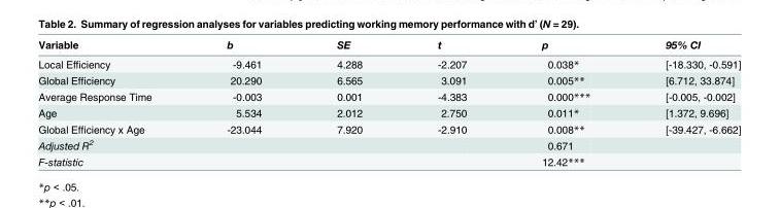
<table><thead><tr><td>Variable</td><td>b</td><td>SE</td><td>t</td><td>p</td><td>95% CI</td></tr></thead><tbody><tr><td>Local Efficiency</td><td>-9.461</td><td>4.288</td><td>-2.207</td><td>0.038*</td><td>[-18.330, -0.591]</td></tr><tr><td>Global Efficiency</td><td>20.290</td><td>6.565</td><td>3.091</td><td>0.005**</td><td>[6.712, 33.874]</td></tr><tr><td>Average Response Time</td><td>-0.003</td><td>0.001</td><td>-4.383</td><td>0.000***</td><td>[-0.005, -0.002]</td></tr><tr><td>Age</td><td>5.534</td><td>2.012</td><td>2.750</td><td>0.011*</td><td>[1.372, 9.696]</td></tr><tr><td>Global Efficiency x Age</td><td>-23.044</td><td>7.920</td><td>-2.910</td><td>0.008**</td><td>[-39.427, -6.662]</td></tr><tr><td>Adjusted R<sup>2</sup></td><td></td><td></td><td></td><td>0.671</td><td></td></tr><tr><td>F-statistic</td><td></td><td></td><td></td><td>12.42***</td><td></td></tr></tbody></table>